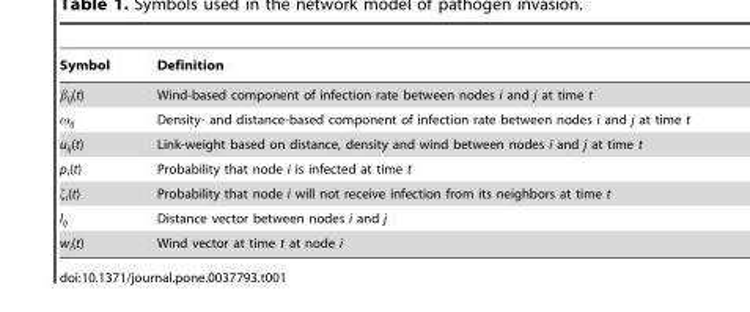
<table><thead><tr><td>Symbol</td><td>Definition</td></tr></thead><tbody><tr><td>β<sub>ij</sub>(t)</td><td>Wind-based component of infection rate between nodes i and j at time t</td></tr><tr><td>ω<sub>ij</sub></td><td>Density- and distance-based component of infection rate between nodes i and j at time t</td></tr><tr><td>u<sub>ij</sub>(t)</td><td>Link-weight based on distance, density and wind between nodes i and j at time t</td></tr><tr><td>p<sub>i</sub>(t)</td><td>Probability that node i is infected at time t</td></tr><tr><td>ζ<sub>i</sub>(t)</td><td>Probability that node i will not receive infection from its neighbors at time t</td></tr><tr><td>l<sub>ij</sub></td><td>Distance vector between nodes i and j</td></tr><tr><td>w<sub>i</sub>(t)</td><td>Wind vector at time t at node i</td></tr></tbody></table>